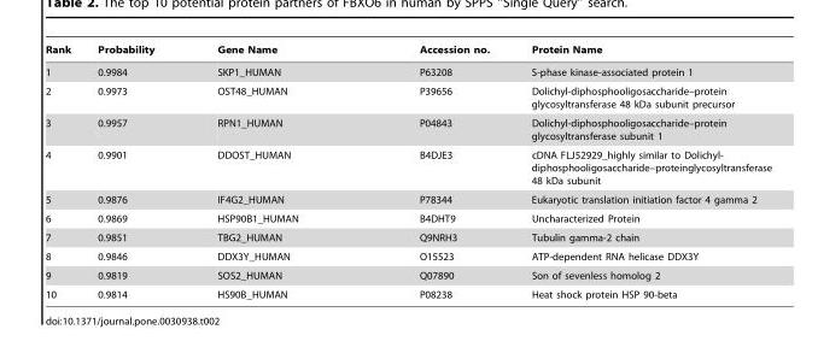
<table><thead><tr><td>Rank</td><td>Probability</td><td>Gene Name</td><td>Accession no.</td><td>Protein Name</td></tr></thead><tbody><tr><td>1</td><td>0.9984</td><td>SKP1_HUMAN</td><td>P63208</td><td>S-phase kinase-associated protein 1</td></tr><tr><td>2</td><td>0.9973</td><td>OST48_HUMAN</td><td>P39656</td><td>Dolichyl-diphosphooligosaccharide–protein glycosyltransferase 48 kDa subunit precursor</td></tr><tr><td>3</td><td>0.9957</td><td>RPN1_HUMAN</td><td>P04843</td><td>Dolichyl-diphosphooligosaccharide–protein glycosyltransferase subunit 1</td></tr><tr><td>4</td><td>0.9901</td><td>DDOST_HUMAN</td><td>B4DJE3</td><td>cDNA FLJ52929_highly similar to Dolichyl- diphosphooligosaccharide–proteinglycosyltransferase 48 kDa subunit</td></tr><tr><td>5</td><td>0.9876</td><td>IF4G2_HUMAN</td><td>P78344</td><td>Eukaryotic translation initiation factor 4 gamma 2</td></tr><tr><td>6</td><td>0.9869</td><td>HSP90B1_HUMAN</td><td>B4DHT9</td><td>Uncharacterized Protein</td></tr><tr><td>7</td><td>0.9851</td><td>TBG2_HUMAN</td><td>Q9NRH3</td><td>Tubulin gamma-2 chain</td></tr><tr><td>8</td><td>0.9846</td><td>DDX3Y_HUMAN</td><td>O15523</td><td>ATP-dependent RNA helicase DDX3Y</td></tr><tr><td>9</td><td>0.9819</td><td>SOS2_HUMAN</td><td>Q07890</td><td>Son of sevenless homolog 2</td></tr><tr><td>10</td><td>0.9814</td><td>HS90B_HUMAN</td><td>P08238</td><td>Heat shock protein HSP 90-beta</td></tr></tbody></table>